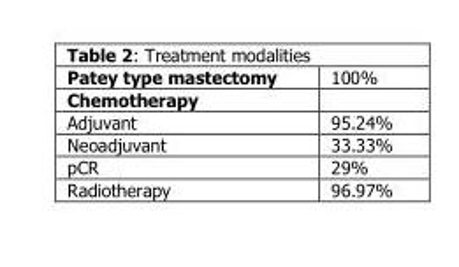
<table><thead><tr><td rowspan="2">Patey type mastectomy Chemotherapy</td><td rowspan="2">100%</td></tr><tr></tr></thead><tbody><tr><td>Adjuvant</td><td>95.24%</td></tr><tr><td>Neoadjuvant</td><td>33.33%</td></tr><tr><td>pCR</td><td>29%</td></tr><tr><td>Radiotherapy</td><td>96.97%</td></tr></tbody></table>